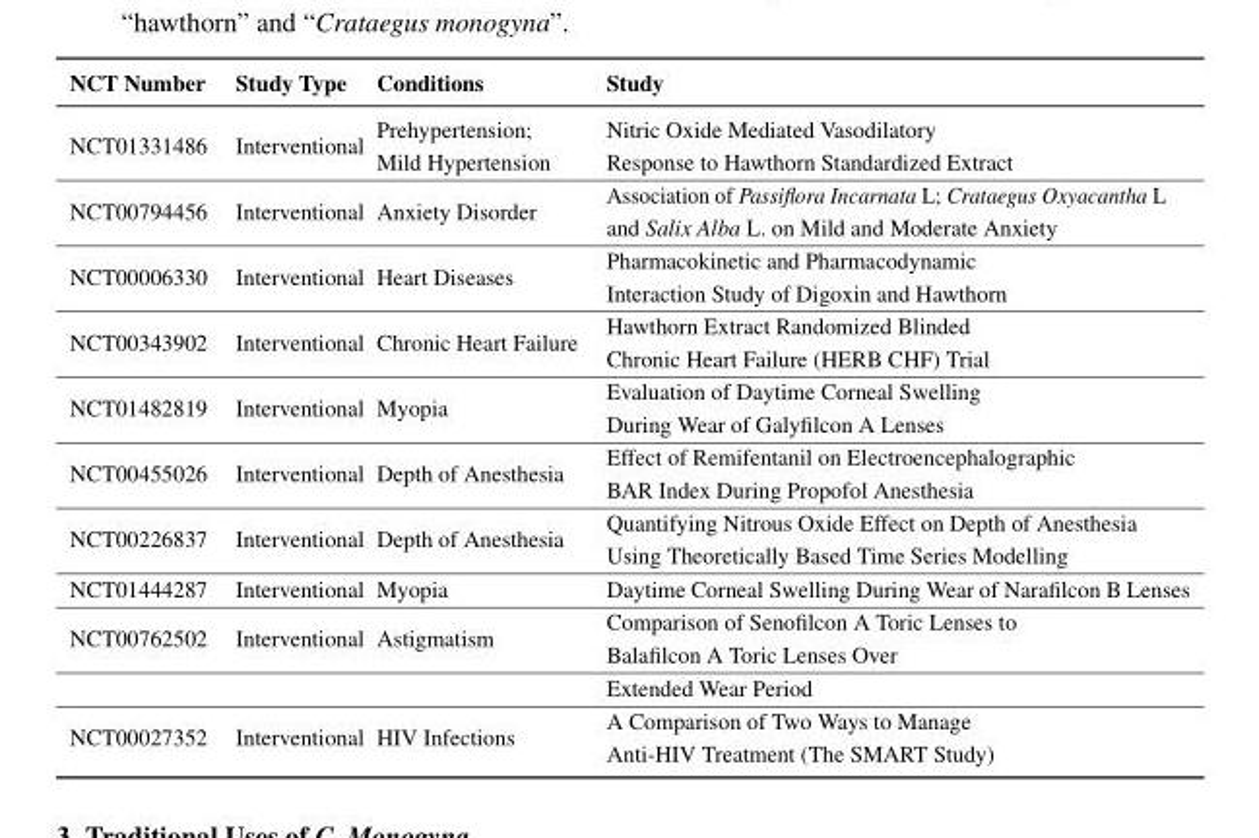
<table><thead><tr><td>NCT Number</td><td>Study Type</td><td>Conditions</td><td>Study</td></tr></thead><tbody><tr><td>NCT01331486</td><td>Interventional</td><td>Prehypertension; Mild Hypertension</td><td>Nitric Oxide Mediated Vasodilatory Response to Hawthorn Standardized Extract</td></tr><tr><td>NCT00794456</td><td>Interventional</td><td>Anxiety Disorder</td><td>Association of Passiflora Incarnata L; Crataegus Oxyacantha L and Salix Alba L. on Mild and Moderate Anxiety</td></tr><tr><td>NCT00006330</td><td>Interventional</td><td>Heart Diseases</td><td>Pharmacokinetic and Pharmacodynamic Interaction Study of Digoxin and Hawthorn</td></tr><tr><td>NCT00343902</td><td>Interventional</td><td>Chronic Heart Failure</td><td>Hawthorn Extract Randomized Blinded Chronic Heart Failure (HERB CHF) Trial</td></tr><tr><td>NCT01482819</td><td>Interventional</td><td>Myopia</td><td>Evaluation of Daytime Corneal Swelling During Wear of Galyfilcon A Lenses</td></tr><tr><td>NCT00455026</td><td>Interventional</td><td>Depth of Anesthesia</td><td>Effect of Remifentanil on Electroencephalographic BAR Index During Propofol Anesthesia</td></tr><tr><td>NCT00226837</td><td>Interventional</td><td>Depth of Anesthesia</td><td>Quantifying Nitrous Oxide Effect on Depth of Anesthesia Using Theoretically Based Time Series Modelling</td></tr><tr><td>NCT01444287</td><td>Interventional</td><td>Myopia</td><td>Daytime Corneal Swelling During Wear of Narafilcon B Lenses</td></tr><tr><td rowspan="2">NCT00762502</td><td>Interventional</td><td>Astigmatism</td><td>Comparison of Senofilcon A Toric Lenses to Balafilcon A Toric Lenses Over</td></tr><tr><td></td><td></td><td>Extended Wear Period</td></tr><tr><td>NCT00027352</td><td>Interventional</td><td>HIV Infections</td><td>A Comparison of Two Ways to Manage Anti-HIV Treatment (The SMART Study)</td></tr></tbody></table>